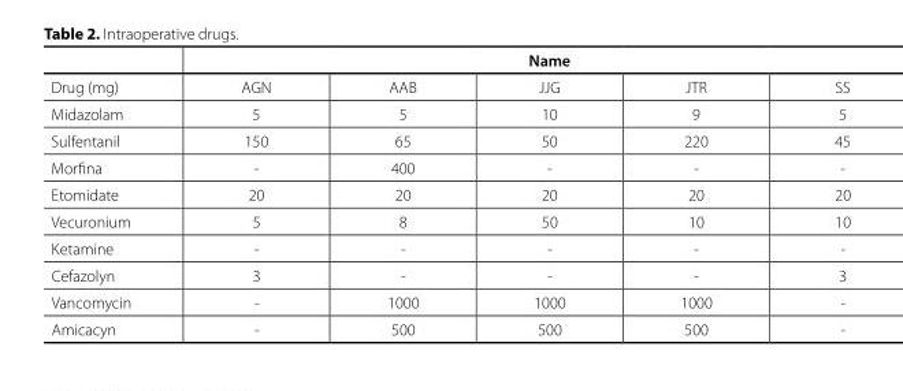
<table><thead><tr><td rowspan="2">Drug (mg)</td><td colspan="5">Name</td></tr><tr><td>AGN</td><td>AAB</td><td>JJG</td><td>JTR</td><td>SS</td></tr></thead><tbody><tr><td>Midazolam</td><td>5</td><td>5</td><td>10</td><td>9</td><td>5</td></tr><tr><td>Sulfentanil</td><td>150</td><td>65</td><td>50</td><td>220</td><td>45</td></tr><tr><td>Morfina</td><td>-</td><td>400</td><td>-</td><td>-</td><td>-</td></tr><tr><td>Etomidate</td><td>20</td><td>20</td><td>20</td><td>20</td><td>20</td></tr><tr><td>Vecuronium</td><td>5</td><td>8</td><td>50</td><td>10</td><td>10</td></tr><tr><td>Ketamine</td><td>-</td><td>-</td><td>-</td><td>-</td><td>-</td></tr><tr><td>Cefazolyn</td><td>3</td><td>-</td><td>-</td><td>-</td><td>3</td></tr><tr><td>Vancomycin</td><td>-</td><td>1000</td><td>1000</td><td>1000</td><td>-</td></tr><tr><td>Amicacyn</td><td>-</td><td>500</td><td>500</td><td>500</td><td>-</td></tr></tbody></table>